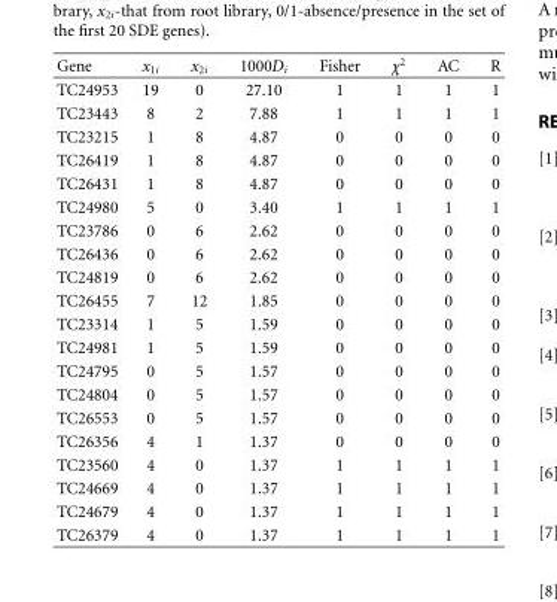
<table><thead><tr><td>Gene</td><td>x<sub>1i</sub></td><td>x<sub>2i</sub></td><td>1000D<sub>i</sub></td><td>Fisher</td><td>χ<sup>2</sup></td><td>AC</td><td>R</td></tr></thead><tbody><tr><td>TC24953</td><td>19</td><td>0</td><td>27.10</td><td>1</td><td>1</td><td>1</td><td>1</td></tr><tr><td>TC23443</td><td>8</td><td>2</td><td>7.88</td><td>1</td><td>1</td><td>1</td><td>1</td></tr><tr><td>TC23215</td><td>1</td><td>8</td><td>4.87</td><td>0</td><td>0</td><td>0</td><td>0</td></tr><tr><td>TC26419</td><td>1</td><td>8</td><td>4.87</td><td>0</td><td>0</td><td>0</td><td>0</td></tr><tr><td>TC26431</td><td>1</td><td>8</td><td>4.87</td><td>0</td><td>0</td><td>0</td><td>0</td></tr><tr><td>TC24980</td><td>5</td><td>0</td><td>3.40</td><td>1</td><td>1</td><td>1</td><td>1</td></tr><tr><td>TC23786</td><td>0</td><td>6</td><td>2.62</td><td>0</td><td>0</td><td>0</td><td>0</td></tr><tr><td>TC26436</td><td>0</td><td>6</td><td>2.62</td><td>0</td><td>0</td><td>0</td><td>0</td></tr><tr><td>TC24819</td><td>0</td><td>6</td><td>2.62</td><td>0</td><td>0</td><td>0</td><td>0</td></tr><tr><td>TC26455</td><td>7</td><td>12</td><td>1.85</td><td>0</td><td>0</td><td>0</td><td>0</td></tr><tr><td>TC23314</td><td>1</td><td>5</td><td>1.59</td><td>0</td><td>0</td><td>0</td><td>0</td></tr><tr><td>TC24981</td><td>1</td><td>5</td><td>1.59</td><td>0</td><td>0</td><td>0</td><td>0</td></tr><tr><td>TC24795</td><td>0</td><td>5</td><td>1.57</td><td>0</td><td>0</td><td>0</td><td>0</td></tr><tr><td>TC24804</td><td>0</td><td>5</td><td>1.57</td><td>0</td><td>0</td><td>0</td><td>0</td></tr><tr><td>TC26553</td><td>0</td><td>5</td><td>1.57</td><td>0</td><td>0</td><td>0</td><td>0</td></tr><tr><td>TC26356</td><td>4</td><td>1</td><td>1.37</td><td>0</td><td>0</td><td>0</td><td>0</td></tr><tr><td>TC23560</td><td>4</td><td>0</td><td>1.37</td><td>1</td><td>1</td><td>1</td><td>1</td></tr><tr><td>TC24669</td><td>4</td><td>0</td><td>1.37</td><td>1</td><td>1</td><td>1</td><td>1</td></tr><tr><td>TC24679</td><td>4</td><td>0</td><td>1.37</td><td>1</td><td>1</td><td>1</td><td>1</td></tr><tr><td>TC26379</td><td>4</td><td>0</td><td>1.37</td><td>1</td><td>1</td><td>1</td><td>1</td></tr></tbody></table>